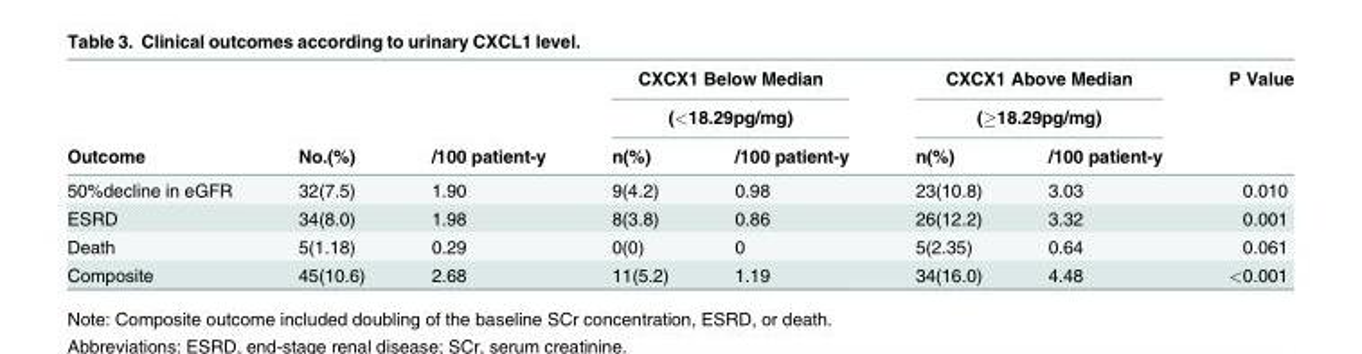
<table><thead><tr><td rowspan="3">Outcome</td><td rowspan="3">No.(%)</td><td rowspan="3">/100 patient-y</td><td rowspan="2" colspan="2">CXCX1 Below Median (&lt;18.29pg/mg)</td><td rowspan="2" colspan="2">CXCX1 Above Median (≥18.29pg/mg)</td><td rowspan="3">P Value</td></tr><tr></tr><tr><td>n(%)</td><td>/100 patient-y</td><td>n(%)</td><td>/100 patient-y</td></tr></thead><tbody><tr><td>50%decline in eGFR</td><td>32(7.5)</td><td>1.90</td><td>9(4.2)</td><td>0.98</td><td>23(10.8)</td><td>3.03</td><td>0.010</td></tr><tr><td>ESRD</td><td>34(8.0)</td><td>1.98</td><td>8(3.8)</td><td>0.86</td><td>26(12.2)</td><td>3.32</td><td>0.001</td></tr><tr><td>Death</td><td>5(1.18)</td><td>0.29</td><td>0(0)</td><td>0</td><td>5(2.35)</td><td>0.64</td><td>0.061</td></tr><tr><td>Composite</td><td>45(10.6)</td><td>2.68</td><td>11(5.2)</td><td>1.19</td><td>34(16.0)</td><td>4.48</td><td>&lt;0.001</td></tr></tbody></table>